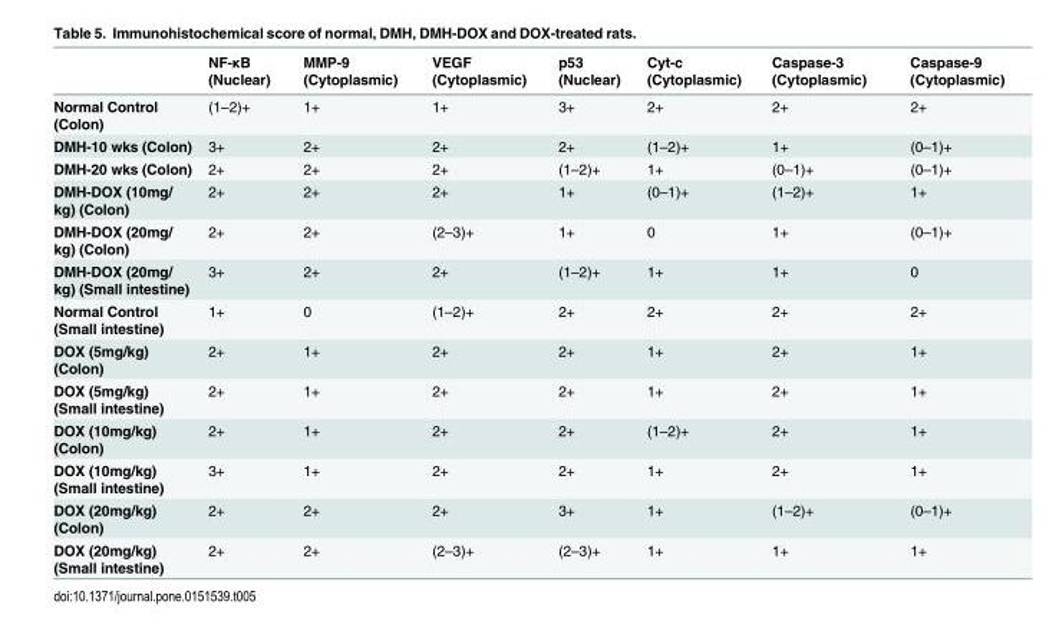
<table><thead><tr><td></td><td>NF-κB (Nuclear)</td><td>MMP-9 (Cytoplasmic)</td><td>VEGF (Cytoplasmic)</td><td>p53 (Nuclear)</td><td>Cyt-c (Cytoplasmic)</td><td>Caspase-3 (Cytoplasmic)</td><td>Caspase-9 (Cytoplasmic)</td></tr></thead><tbody><tr><td>Normal Control (Colon)</td><td>(1–2)+</td><td>1+</td><td>1+</td><td>3+</td><td>2+</td><td>2+</td><td>2+</td></tr><tr><td>DMH-10 wks (Colon)</td><td>3+</td><td>2+</td><td>2+</td><td>2+</td><td>(1–2)+</td><td>1+</td><td>(0–1)+</td></tr><tr><td>DMH-20 wks (Colon)</td><td>2+</td><td>2+</td><td>2+</td><td>(1–2)+</td><td>1+</td><td>(0–1)+</td><td>(0–1)+</td></tr><tr><td>DMH-DOX (10mg/ kg) (Colon)</td><td>2+</td><td>2+</td><td>2+</td><td>1+</td><td>(0–1)+</td><td>(1–2)+</td><td>1+</td></tr><tr><td>DMH-DOX (20mg/ kg) (Colon)</td><td>2+</td><td>2+</td><td>(2–3)+</td><td>1+</td><td>0</td><td>1+</td><td>(0–1)+</td></tr><tr><td>DMH-DOX (20mg/ kg) (Small intestine)</td><td>3+</td><td>2+</td><td>2+</td><td>(1–2)+</td><td>1+</td><td>1+</td><td>0</td></tr><tr><td>Normal Control (Small intestine)</td><td>1+</td><td>0</td><td>(1–2)+</td><td>2+</td><td>2+</td><td>2+</td><td>2+</td></tr><tr><td>DOX (5mg/kg) (Colon)</td><td>2+</td><td>1+</td><td>2+</td><td>2+</td><td>1+</td><td>2+</td><td>1+</td></tr><tr><td>DOX (5mg/kg) (Small intestine)</td><td>2+</td><td>1+</td><td>2+</td><td>2+</td><td>1+</td><td>2+</td><td>1+</td></tr><tr><td>DOX (10mg/kg) (Colon)</td><td>2+</td><td>1+</td><td>2+</td><td>2+</td><td>(1–2)+</td><td>2+</td><td>1+</td></tr><tr><td>DOX (10mg/kg) (Small intestine)</td><td>3+</td><td>1+</td><td>2+</td><td>2+</td><td>1+</td><td>2+</td><td>1+</td></tr><tr><td>DOX (20mg/kg) (Colon)</td><td>2+</td><td>2+</td><td>2+</td><td>3+</td><td>1+</td><td>(1–2)+</td><td>(0–1)+</td></tr><tr><td>DOX (20mg/kg) (Small intestine)</td><td>2+</td><td>2+</td><td>(2–3)+</td><td>(2–3)+</td><td>1+</td><td>1+</td><td>1+</td></tr></tbody></table>